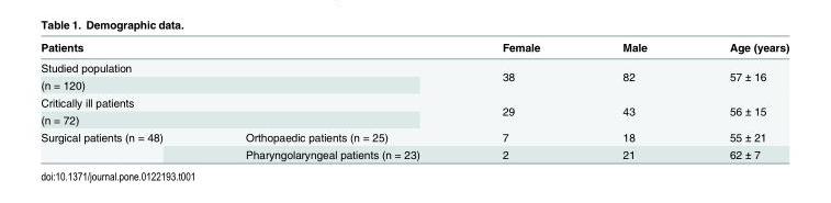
<table><thead><tr><td colspan="2">Patients</td><td>Female</td><td>Male</td><td>Age (years)</td></tr></thead><tbody><tr><td colspan="2">Studied population</td><td rowspan="2">38</td><td rowspan="2">82</td><td rowspan="2">57 ± 16</td></tr><tr><td colspan="2">(n = 120)</td></tr><tr><td colspan="2">Critically ill patients</td><td rowspan="2">29</td><td rowspan="2">43</td><td rowspan="2">56 ± 15</td></tr><tr><td colspan="2">(n = 72)</td></tr><tr><td rowspan="2">Surgical patients (n = 48)</td><td>Orthopaedic patients (n = 25)</td><td>7</td><td>18</td><td>55 ± 21</td></tr><tr><td>Pharyngolaryngeal patients (n = 23)</td><td>2</td><td>21</td><td>62 ± 7</td></tr></tbody></table>